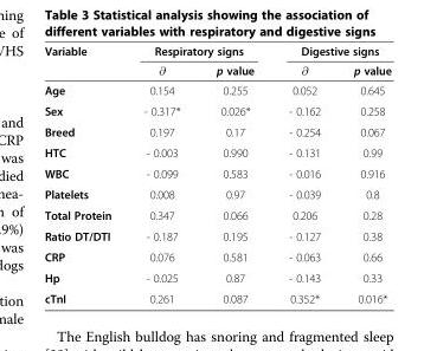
<table><thead><tr><td rowspan="2">Variable</td><td colspan="2">Respiratory signs</td><td colspan="2">Digestive signs</td></tr><tr><td>∂</td><td>p value</td><td>∂</td><td>p value</td></tr></thead><tbody><tr><td>Age</td><td>0.154</td><td>0.255</td><td>0.052</td><td>0.645</td></tr><tr><td>Sex</td><td>- 0.317*</td><td>0.026*</td><td>- 0.162</td><td>0.258</td></tr><tr><td>Breed</td><td>0.197</td><td>0.17</td><td>- 0.254</td><td>0.067</td></tr><tr><td>HTC</td><td>- 0.003</td><td>0.990</td><td>- 0.131</td><td>0.99</td></tr><tr><td>WBC</td><td>- 0.099</td><td>0.583</td><td>- 0.016</td><td>0.916</td></tr><tr><td>Platelets</td><td>0.008</td><td>0.97</td><td>- 0.039</td><td>0.8</td></tr><tr><td>Total Protein</td><td>0.347</td><td>0.066</td><td>0.206</td><td>0.28</td></tr><tr><td>Ratio DT/DTI</td><td>- 0.187</td><td>0.195</td><td>- 0.127</td><td>0.38</td></tr><tr><td>CRP</td><td>0.076</td><td>0.581</td><td>- 0.063</td><td>0.66</td></tr><tr><td>Hp</td><td>- 0.025</td><td>0.87</td><td>- 0.143</td><td>0.33</td></tr><tr><td>cTnI</td><td>0.261</td><td>0.087</td><td>0.352*</td><td>0.016*</td></tr></tbody></table>